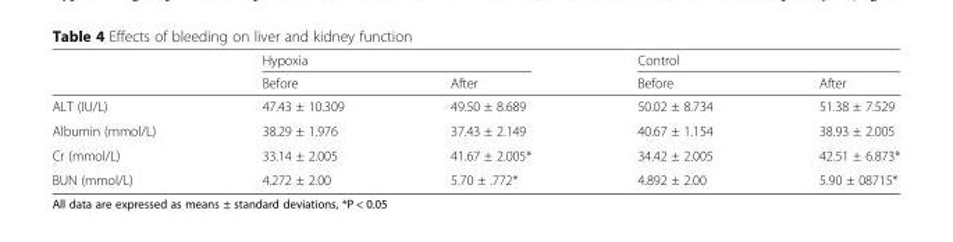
<table><thead><tr><td rowspan="2"></td><td colspan="2">Hypoxia</td><td colspan="2">Control</td></tr><tr><td>Before</td><td>After</td><td>Before</td><td>After</td></tr></thead><tbody><tr><td>ALT (IU/L)</td><td>47.43 ± 10.309</td><td>49.50 ± 8.689</td><td>50.02 ± 8.734</td><td>51.38 ± 7.529</td></tr><tr><td>Albumin (mmol/L)</td><td>38.29 ± 1.976</td><td>37.43 ± 2.149</td><td>40.67 ± 1.154</td><td>38.93 ± 2.005</td></tr><tr><td>Cr (mmol/L)</td><td>33.14 ± 2.005</td><td>41.67 ± 2.005*</td><td>34.42 ± 2.005</td><td>42.51 ± 6.873*</td></tr><tr><td>BUN (mmol/L)</td><td>4.272 ± 2.00</td><td>5.70 ± .772*</td><td>4.892 ± 2.00</td><td>5.90 ± 08715*</td></tr></tbody></table>